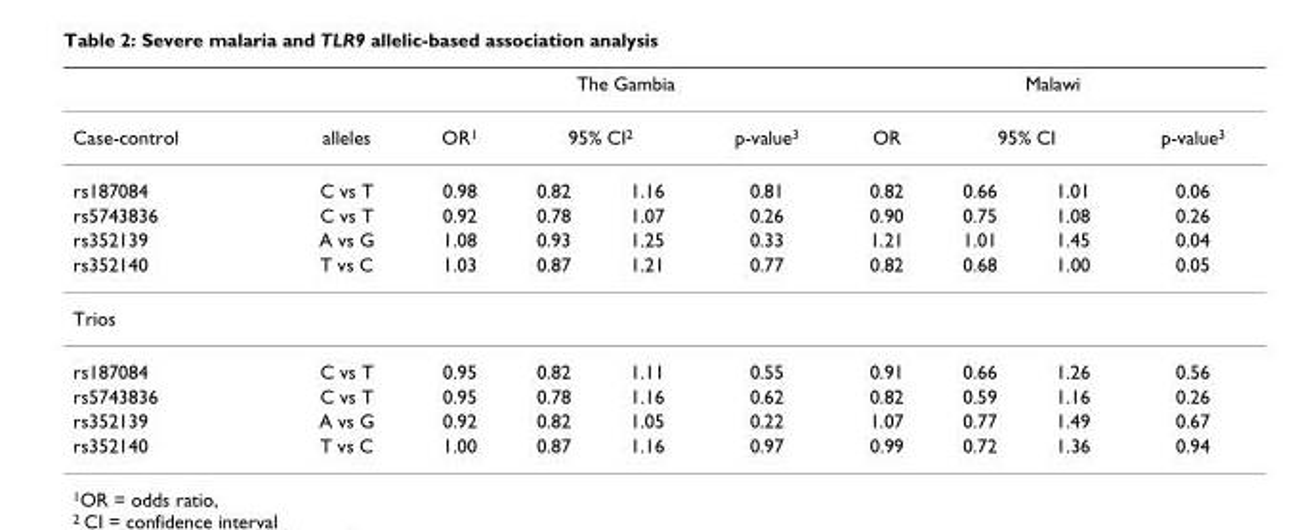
<table><thead><tr><td rowspan="3">Case-control rs187084</td><td rowspan="3">alleles C vs T</td><td colspan="4">The Gambia</td><td colspan="4">Malawi</td></tr><tr><td rowspan="2">OR1 0.98</td><td colspan="2">95% CI2</td><td rowspan="2">p-value3 0.81</td><td rowspan="2">OR 0.82</td><td colspan="2">95% CI</td><td rowspan="2">p-value3 0.06</td></tr><tr><td>0.82</td><td>1.16</td><td>0.66</td><td>1.01</td></tr></thead><tbody><tr><td>rs5743836</td><td>C vs T</td><td>0.92</td><td>0.78</td><td>1.07</td><td>0.26</td><td>0.90</td><td>0.75</td><td>1.08</td><td>0.26</td></tr><tr><td>rs352139</td><td>A vs G</td><td>1.08</td><td>0.93</td><td>1.25</td><td>0.33</td><td>1.21</td><td>1.01</td><td>1.45</td><td>0.04</td></tr><tr><td>rs352140</td><td>T vs C</td><td>1.03</td><td>0.87</td><td>1.21</td><td>0.77</td><td>0.82</td><td>0.68</td><td>1.00</td><td>0.05</td></tr><tr><td colspan="10">Trios</td></tr><tr><td>rs187084</td><td>C vs T</td><td>0.95</td><td>0.82</td><td>1.11</td><td>0.55</td><td>0.91</td><td>0.66</td><td>1.26</td><td>0.56</td></tr><tr><td>rs5743836</td><td>C vs T</td><td>0.95</td><td>0.78</td><td>1.16</td><td>0.62</td><td>0.82</td><td>0.59</td><td>1.16</td><td>0.26</td></tr><tr><td>rs352139</td><td>A vs G</td><td>0.92</td><td>0.82</td><td>1.05</td><td>0.22</td><td>1.07</td><td>0.77</td><td>1.49</td><td>0.67</td></tr><tr><td>rs352140</td><td>T vs C</td><td>1.00</td><td>0.87</td><td>1.16</td><td>0.97</td><td>0.99</td><td>0.72</td><td>1.36</td><td>0.94</td></tr></tbody></table>